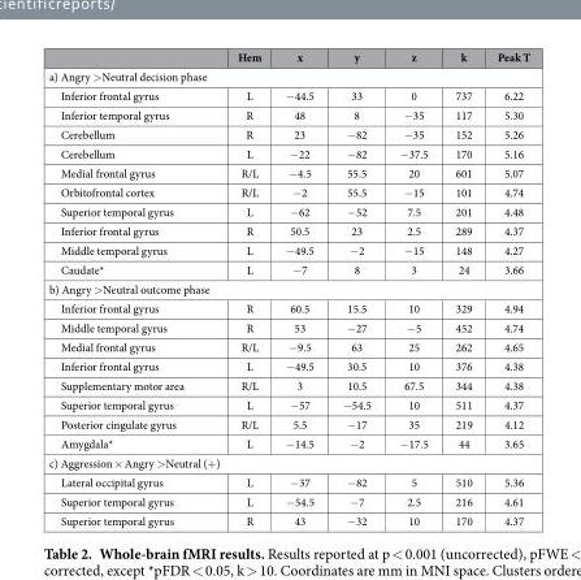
<table><thead><tr><td></td><td>Hem</td><td>x</td><td>y</td><td>z</td><td>k</td><td>Peak T</td></tr></thead><tbody><tr><td colspan="7">a) Angry &gt; Neutral decision phase</td></tr><tr><td>Inferior frontal gyrus</td><td>L</td><td>− 44.5</td><td>33</td><td>0</td><td>737</td><td>6.22</td></tr><tr><td>Inferior temporal gyrus</td><td>R</td><td>48</td><td>8</td><td>− 35</td><td>117</td><td>5.30</td></tr><tr><td>Cerebellum</td><td>R</td><td>23</td><td>− 82</td><td>− 35</td><td>152</td><td>5.26</td></tr><tr><td>Cerebellum</td><td>L</td><td>− 22</td><td>− 82</td><td>− 37.5</td><td>170</td><td>5.16</td></tr><tr><td>Medial frontal gyrus</td><td>R/L</td><td>− 4.5</td><td>55.5</td><td>20</td><td>601</td><td>5.07</td></tr><tr><td>Orbitofrontal cortex</td><td>R/L</td><td>− 2</td><td>55.5</td><td>− 15</td><td>101</td><td>4.74</td></tr><tr><td>Superior temporal gyrus</td><td>L</td><td>− 62</td><td>− 52</td><td>7.5</td><td>201</td><td>4.48</td></tr><tr><td>Inferior frontal gyrus</td><td>R</td><td>50.5</td><td>23</td><td>2.5</td><td>289</td><td>4.37</td></tr><tr><td>Middle temporal gyrus</td><td>L</td><td>− 49.5</td><td>− 2</td><td>− 15</td><td>148</td><td>4.27</td></tr><tr><td>Caudate*</td><td>L</td><td>− 7</td><td>8</td><td>3</td><td>24</td><td>3.66</td></tr><tr><td colspan="7">b) Angry &gt; Neutral outcome phase</td></tr><tr><td>Inferior frontal gyrus</td><td>R</td><td>60.5</td><td>15.5</td><td>10</td><td>329</td><td>4.94</td></tr><tr><td>Middle temporal gyrus</td><td>R</td><td>53</td><td>− 27</td><td>− 5</td><td>452</td><td>4.74</td></tr><tr><td>Medial frontal gyrus</td><td>R/L</td><td>− 9.5</td><td>63</td><td>25</td><td>262</td><td>4.65</td></tr><tr><td>Inferior frontal gyrus</td><td>L</td><td>− 49.5</td><td>30.5</td><td>10</td><td>376</td><td>4.38</td></tr><tr><td>Supplementary motor area</td><td>R/L</td><td>3</td><td>10.5</td><td>67.5</td><td>344</td><td>4.38</td></tr><tr><td>Superior temporal gyrus</td><td>L</td><td>− 57</td><td>− 54.5</td><td>10</td><td>511</td><td>4.37</td></tr><tr><td>Posterior cingulate gyrus</td><td>R/L</td><td>5.5</td><td>− 17</td><td>35</td><td>219</td><td>4.12</td></tr><tr><td>Amygdala*</td><td>L</td><td>− 14.5</td><td>− 2</td><td>− 17.5</td><td>44</td><td>3.65</td></tr><tr><td colspan="7">c) Aggression × Angry &gt; Neutral (+ )</td></tr><tr><td>Lateral occipital gyrus</td><td>L</td><td>− 37</td><td>− 82</td><td>5</td><td>510</td><td>5.36</td></tr><tr><td>Superior temporal gyrus</td><td>L</td><td>− 54.5</td><td>− 7</td><td>2.5</td><td>216</td><td>4.61</td></tr><tr><td>Superior temporal gyrus</td><td>R</td><td>43</td><td>− 32</td><td>10</td><td>170</td><td>4.37</td></tr></tbody></table>